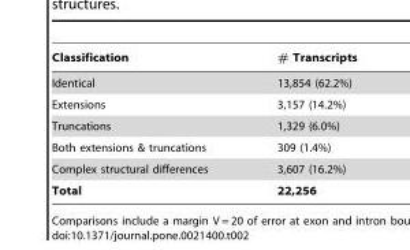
<table><thead><tr><td>Classification</td><td># Transcripts</td></tr></thead><tbody><tr><td>Identical</td><td>13,854 (62.2%)</td></tr><tr><td>Extensions</td><td>3,157 (14.2%)</td></tr><tr><td>Truncations</td><td>1,329 (6.0%)</td></tr><tr><td>Both extensions &amp; truncations</td><td>309 (1.4%)</td></tr><tr><td>Complex structural differences</td><td>3,607 (16.2%)</td></tr><tr><td>Total</td><td>22,256</td></tr></tbody></table>